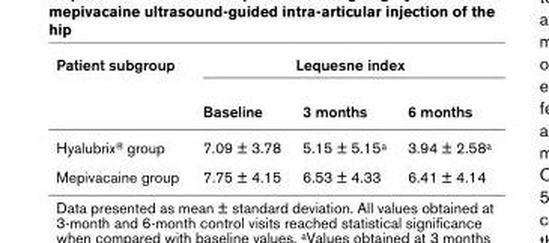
<table><thead><tr><td rowspan="2">Patient subgroup</td><td colspan="3">Lequesne index</td></tr><tr><td>Baseline</td><td>3 months</td><td>6 months</td></tr></thead><tbody><tr><td>Hyalubrix<sup>®</sup> group</td><td>7.09 ± 3.78</td><td>5.15 ± 5.15<sup>a</sup></td><td>3.94 ± 2.58<sup>a</sup></td></tr><tr><td>Mepivacaine group</td><td>7.75 ± 4.15</td><td>6.53 ± 4.33</td><td>6.41 ± 4.14</td></tr></tbody></table>